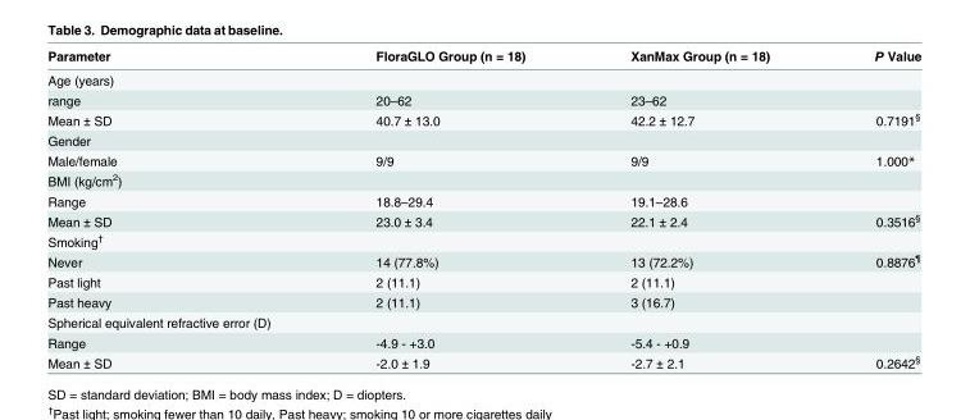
<table><thead><tr><td>Parameter</td><td>FloraGLO Group (n = 18)</td><td>XanMax Group (n = 18)</td><td>P Value</td></tr></thead><tbody><tr><td colspan="4">Age (years)</td></tr><tr><td>range</td><td>20–62</td><td>23–62</td><td></td></tr><tr><td>Mean ± SD</td><td>40.7 ± 13.0</td><td>42.2 ± 12.7</td><td>0.7191<sup>§</sup></td></tr><tr><td colspan="4">Gender</td></tr><tr><td>Male/female</td><td>9/9</td><td>9/9</td><td>1.000*</td></tr><tr><td colspan="4">BMI (kg/cm<sup>2</sup>)</td></tr><tr><td>Range</td><td>18.8–29.4</td><td>19.1–28.6</td><td></td></tr><tr><td>Mean ± SD</td><td>23.0 ± 3.4</td><td>22.1 ± 2.4</td><td>0.3516<sup>§</sup></td></tr><tr><td colspan="4">Smoking<sup>†</sup></td></tr><tr><td>Never</td><td>14 (77.8%)</td><td>13 (72.2%)</td><td>0.8876<sup>¶</sup></td></tr><tr><td>Past light</td><td>2 (11.1)</td><td>2 (11.1)</td><td></td></tr><tr><td>Past heavy</td><td>2 (11.1)</td><td>3 (16.7)</td><td></td></tr><tr><td colspan="4">Spherical equivalent refractive error (D)</td></tr><tr><td>Range</td><td>-4.9 - +3.0</td><td>-5.4 - +0.9</td><td></td></tr><tr><td>Mean ± SD</td><td>-2.0 ± 1.9</td><td>-2.7 ± 2.1</td><td>0.2642<sup>§</sup></td></tr></tbody></table>